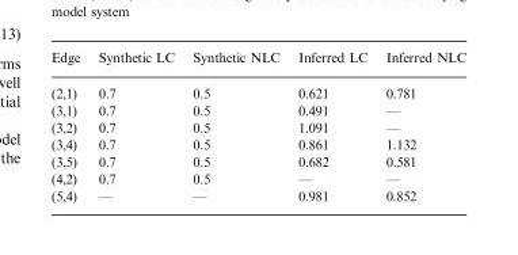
<table><thead><tr><td>Edge</td><td>Synthetic LC</td><td>Synthetic NLC</td><td>Inferred LC</td><td>Inferred NLC</td></tr></thead><tbody><tr><td>(2,1)</td><td>0.7</td><td>0.5</td><td>0.621</td><td>0.781</td></tr><tr><td>(3,1)</td><td>0.7</td><td>0.5</td><td>0.491</td><td>—</td></tr><tr><td>(3,2)</td><td>0.7</td><td>0.5</td><td>1.091</td><td>—</td></tr><tr><td>(3,4)</td><td>0.7</td><td>0.5</td><td>0.861</td><td>1.132</td></tr><tr><td>(3,5)</td><td>0.7</td><td>0.5</td><td>0.682</td><td>0.581</td></tr><tr><td>(4,2)</td><td>0.7</td><td>0.5</td><td>—</td><td>—</td></tr><tr><td>(5,4)</td><td>—</td><td>—</td><td>0.981</td><td>0.852</td></tr></tbody></table>